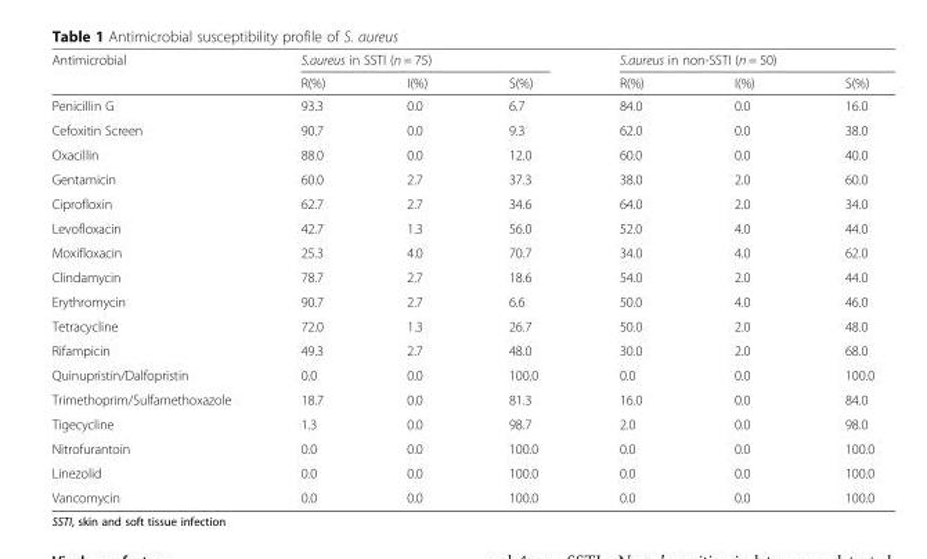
<table><thead><tr><td rowspan="2">Antimicrobial</td><td colspan="3">S.aureus in SSTI (n = 75)</td><td colspan="3">S.aureus in non-SSTI (n = 50)</td></tr><tr><td>R(%)</td><td>I(%)</td><td>S(%)</td><td>R(%)</td><td>I(%)</td><td>S(%)</td></tr></thead><tbody><tr><td>Penicillin G</td><td>93.3</td><td>0.0</td><td>6.7</td><td>84.0</td><td>0.0</td><td>16.0</td></tr><tr><td>Cefoxitin Screen</td><td>90.7</td><td>0.0</td><td>9.3</td><td>62.0</td><td>0.0</td><td>38.0</td></tr><tr><td>Oxacillin</td><td>88.0</td><td>0.0</td><td>12.0</td><td>60.0</td><td>0.0</td><td>40.0</td></tr><tr><td>Gentamicin</td><td>60.0</td><td>2.7</td><td>37.3</td><td>38.0</td><td>2.0</td><td>60.0</td></tr><tr><td>Ciprofloxin</td><td>62.7</td><td>2.7</td><td>34.6</td><td>64.0</td><td>2.0</td><td>34.0</td></tr><tr><td>Levofloxacin</td><td>42.7</td><td>1.3</td><td>56.0</td><td>52.0</td><td>4.0</td><td>44.0</td></tr><tr><td>Moxifloxacin</td><td>25.3</td><td>4.0</td><td>70.7</td><td>34.0</td><td>4.0</td><td>62.0</td></tr><tr><td>Clindamycin</td><td>78.7</td><td>2.7</td><td>18.6</td><td>54.0</td><td>2.0</td><td>44.0</td></tr><tr><td>Erythromycin</td><td>90.7</td><td>2.7</td><td>6.6</td><td>50.0</td><td>4.0</td><td>46.0</td></tr><tr><td>Tetracycline</td><td>72.0</td><td>1.3</td><td>26.7</td><td>50.0</td><td>2.0</td><td>48.0</td></tr><tr><td>Rifampicin</td><td>49.3</td><td>2.7</td><td>48.0</td><td>30.0</td><td>2.0</td><td>68.0</td></tr><tr><td>Quinupristin/Dalfopristin</td><td>0.0</td><td>0.0</td><td>100.0</td><td>0.0</td><td>0.0</td><td>100.0</td></tr><tr><td>Trimethoprim/Sulfamethoxazole</td><td>18.7</td><td>0.0</td><td>81.3</td><td>16.0</td><td>0.0</td><td>84.0</td></tr><tr><td>Tigecycline</td><td>1.3</td><td>0.0</td><td>98.7</td><td>2.0</td><td>0.0</td><td>98.0</td></tr><tr><td>Nitrofurantoin</td><td>0.0</td><td>0.0</td><td>100.0</td><td>0.0</td><td>0.0</td><td>100.0</td></tr><tr><td>Linezolid</td><td>0.0</td><td>0.0</td><td>100.0</td><td>0.0</td><td>0.0</td><td>100.0</td></tr><tr><td>Vancomycin</td><td>0.0</td><td>0.0</td><td>100.0</td><td>0.0</td><td>0.0</td><td>100.0</td></tr></tbody></table>